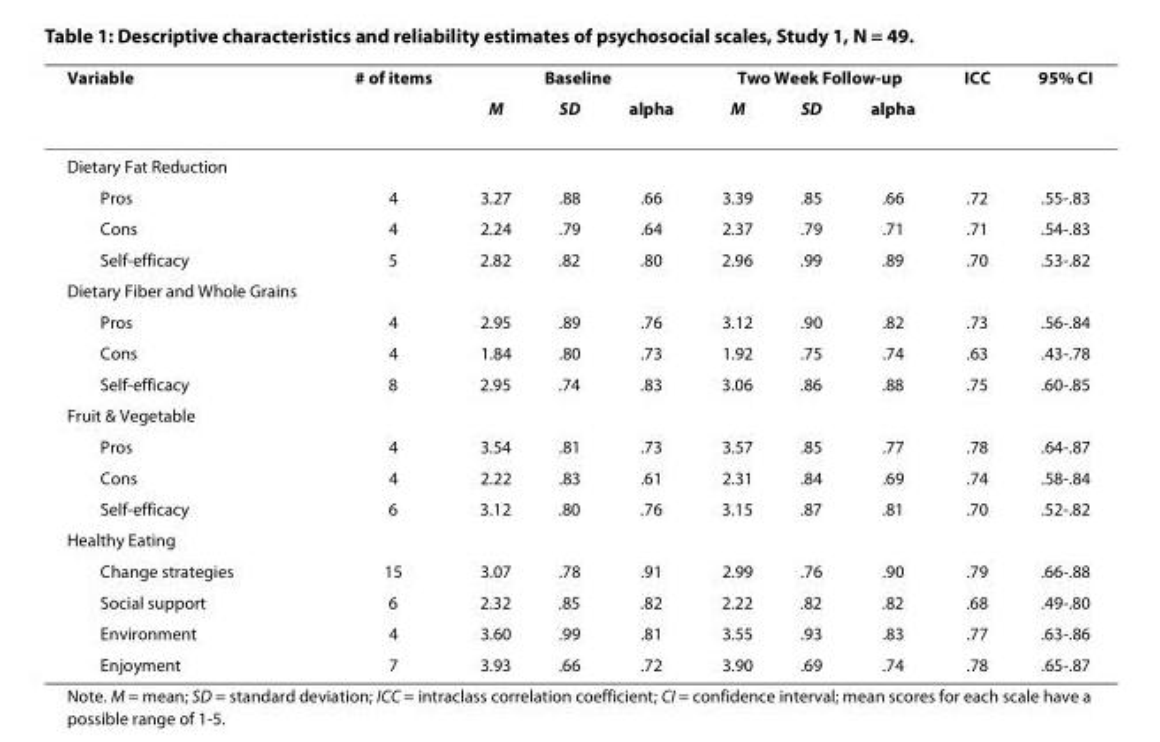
<table><thead><tr><td rowspan="2">Variable</td><td rowspan="2"># of items</td><td colspan="3">Baseline</td><td colspan="3">Two Week Follow-up</td><td rowspan="2">ICC</td><td rowspan="2">95% CI</td></tr><tr><td>M</td><td>SD</td><td>alpha</td><td>M</td><td>SD</td><td>alpha</td></tr></thead><tbody><tr><td colspan="10">Dietary Fat Reduction</td></tr><tr><td>Pros</td><td>4</td><td>3.27</td><td>.88</td><td>.66</td><td>3.39</td><td>.85</td><td>.66</td><td>.72</td><td>.55-.83</td></tr><tr><td>Cons</td><td>4</td><td>2.24</td><td>.79</td><td>.64</td><td>2.37</td><td>.79</td><td>.71</td><td>.71</td><td>.54-.83</td></tr><tr><td>Self-efficacy</td><td>5</td><td>2.82</td><td>.82</td><td>.80</td><td>2.96</td><td>.99</td><td>.89</td><td>.70</td><td>.53-.82</td></tr><tr><td colspan="10">Dietary Fiber and Whole Grains</td></tr><tr><td>Pros</td><td>4</td><td>2.95</td><td>.89</td><td>.76</td><td>3.12</td><td>.90</td><td>.82</td><td>.73</td><td>.56-.84</td></tr><tr><td>Cons</td><td>4</td><td>1.84</td><td>.80</td><td>.73</td><td>1.92</td><td>.75</td><td>.74</td><td>.63</td><td>.43-.78</td></tr><tr><td>Self-efficacy</td><td>8</td><td>2.95</td><td>.74</td><td>.83</td><td>3.06</td><td>.86</td><td>.88</td><td>.75</td><td>.60-.85</td></tr><tr><td colspan="10">Fruit &amp; Vegetable</td></tr><tr><td>Pros</td><td>4</td><td>3.54</td><td>.81</td><td>.73</td><td>3.57</td><td>.85</td><td>.77</td><td>.78</td><td>.64-.87</td></tr><tr><td>Cons</td><td>4</td><td>2.22</td><td>.83</td><td>.61</td><td>2.31</td><td>.84</td><td>.69</td><td>.74</td><td>.58-.84</td></tr><tr><td>Self-efficacy</td><td>6</td><td>3.12</td><td>.80</td><td>.76</td><td>3.15</td><td>.87</td><td>.81</td><td>.70</td><td>.52-.82</td></tr><tr><td colspan="10">Healthy Eating</td></tr><tr><td>Change strategies</td><td>15</td><td>3.07</td><td>.78</td><td>.91</td><td>2.99</td><td>.76</td><td>.90</td><td>.79</td><td>.66-.88</td></tr><tr><td>Social support</td><td>6</td><td>2.32</td><td>.85</td><td>.82</td><td>2.22</td><td>.82</td><td>.82</td><td>.68</td><td>.49-.80</td></tr><tr><td>Environment</td><td>4</td><td>3.60</td><td>.99</td><td>.81</td><td>3.55</td><td>.93</td><td>.83</td><td>.77</td><td>.63-.86</td></tr><tr><td>Enjoyment</td><td>7</td><td>3.93</td><td>.66</td><td>.72</td><td>3.90</td><td>.69</td><td>.74</td><td>.78</td><td>.65-.87</td></tr></tbody></table>